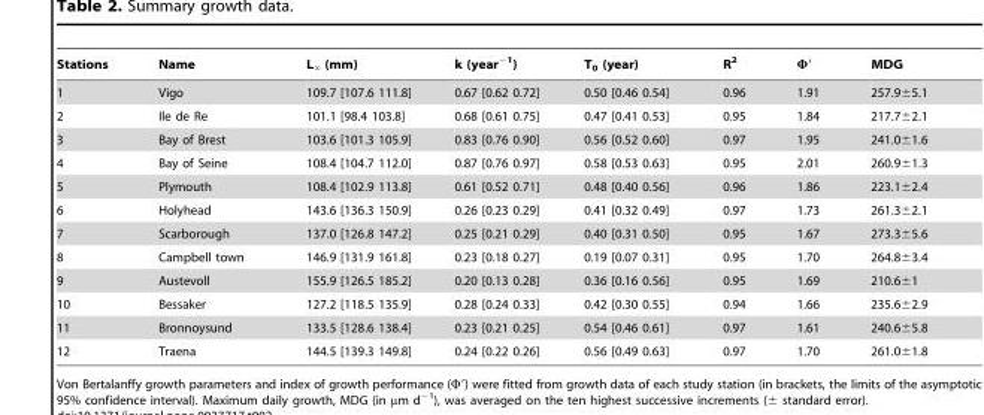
<table><thead><tr><td>Stations</td><td>Name</td><td>L‘ (mm)</td><td>k (year<sup>−1</sup>)</td><td>T<sub>0</sub> (year)</td><td>R<sup>2</sup></td><td>Φ′</td><td>MDG</td></tr></thead><tbody><tr><td>1</td><td>Vigo</td><td>109.7 [107.6 111.8]</td><td>0.67 [0.62 0.72]</td><td>0.50 [0.46 0.54]</td><td>0.96</td><td>1.91</td><td>257.9±5.1</td></tr><tr><td>2</td><td>Ile de Re</td><td>101.1 [98.4 103.8]</td><td>0.68 [0.61 0.75]</td><td>0.47 [0.41 0.53]</td><td>0.95</td><td>1.84</td><td>217.7±2.1</td></tr><tr><td>3</td><td>Bay of Brest</td><td>103.6 [101.3 105.9]</td><td>0.83 [0.76 0.90]</td><td>0.56 [0.52 0.60]</td><td>0.97</td><td>1.95</td><td>241.0±1.6</td></tr><tr><td>4</td><td>Bay of Seine</td><td>108.4 [104.7 112.0]</td><td>0.87 [0.76 0.97]</td><td>0.58 [0.53 0.63]</td><td>0.95</td><td>2.01</td><td>260.9±1.3</td></tr><tr><td>5</td><td>Plymouth</td><td>108.4 [102.9 113.8]</td><td>0.61 [0.52 0.71]</td><td>0.48 [0.40 0.56]</td><td>0.96</td><td>1.86</td><td>223.1±2.4</td></tr><tr><td>6</td><td>Holyhead</td><td>143.6 [136.3 150.9]</td><td>0.26 [0.23 0.29]</td><td>0.41 [0.32 0.49]</td><td>0.97</td><td>1.73</td><td>261.3±2.1</td></tr><tr><td>7</td><td>Scarborough</td><td>137.0 [126.8 147.2]</td><td>0.25 [0.21 0.29]</td><td>0.40 [0.31 0.50]</td><td>0.95</td><td>1.67</td><td>273.3±5.6</td></tr><tr><td>8</td><td>Campbell town</td><td>146.9 [131.9 161.8]</td><td>0.23 [0.18 0.27]</td><td>0.19 [0.07 0.31]</td><td>0.95</td><td>1.70</td><td>264.8±3.4</td></tr><tr><td>9</td><td>Austevoll</td><td>155.9 [126.5 185.2]</td><td>0.20 [0.13 0.28]</td><td>0.36 [0.16 0.56]</td><td>0.95</td><td>1.69</td><td>210.6±1</td></tr><tr><td>10</td><td>Bessaker</td><td>127.2 [118.5 135.9]</td><td>0.28 [0.24 0.33]</td><td>0.42 [0.30 0.55]</td><td>0.94</td><td>1.66</td><td>235.6±2.9</td></tr><tr><td>11</td><td>Bronnoysund</td><td>133.5 [128.6 138.4]</td><td>0.23 [0.21 0.25]</td><td>0.54 [0.46 0.61]</td><td>0.97</td><td>1.61</td><td>240.6±5.8</td></tr><tr><td>12</td><td>Traena</td><td>144.5 [139.3 149.8]</td><td>0.24 [0.22 0.26]</td><td>0.56 [0.49 0.63]</td><td>0.97</td><td>1.70</td><td>261.0±1.8</td></tr></tbody></table>